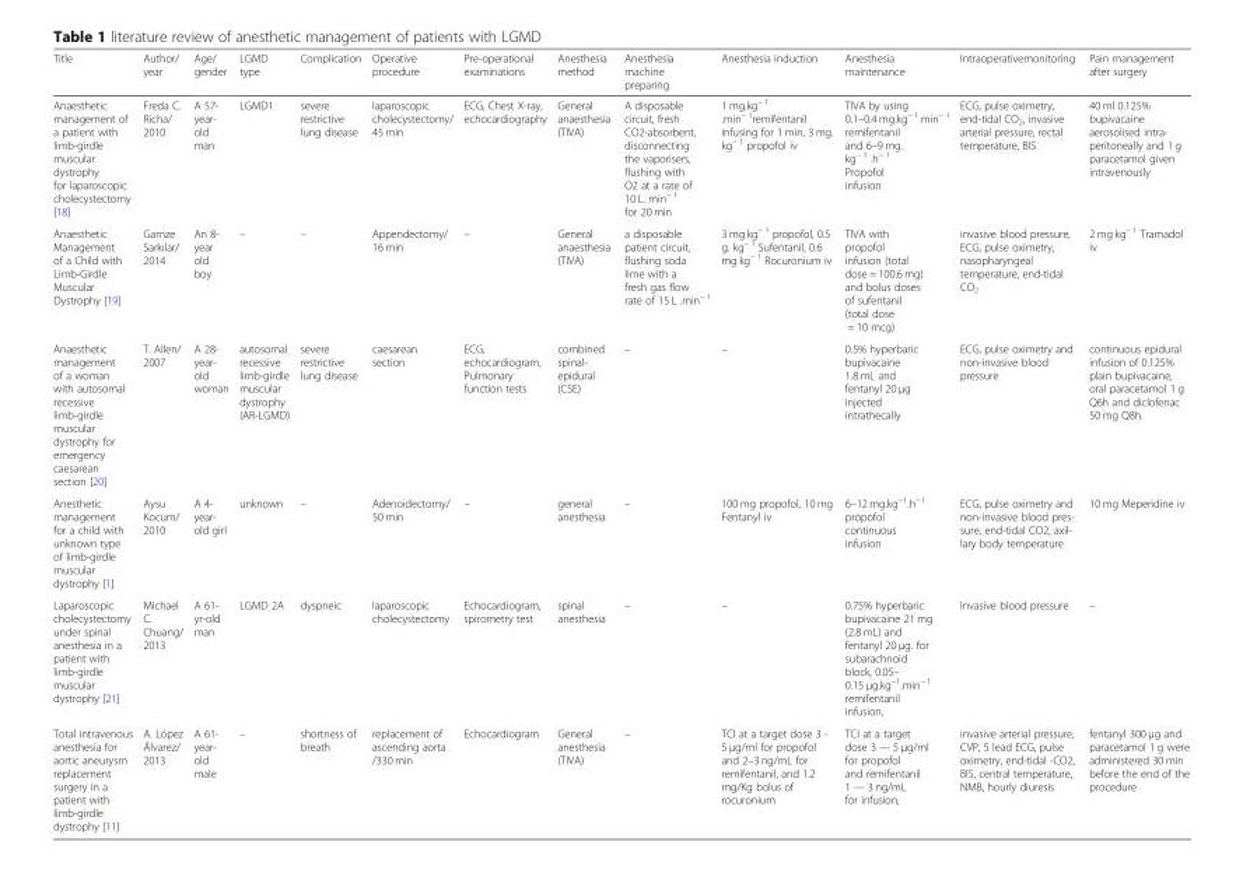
<table><thead><tr><td>Title</td><td>Author/ year</td><td>Age/ gender</td><td>LGMD type</td><td>Complication</td><td>Operative procedure</td><td>Pre-operational examinations</td><td>Anesthesia method</td><td>Anesthesia machine preparing</td><td>Anesthesia induction</td><td>Anesthesia maintenance</td><td>Intraoperativemonitoring</td><td>Pain management after surgery</td></tr></thead><tbody><tr><td>Anaesthetic management of a patient with limb-girdle muscular dystrophy for laparoscopic cholecystectomy [18]</td><td>Freda C. Richa/ 2010</td><td>A 57- year- old man</td><td>LGMD1</td><td>severe restrictive lung disease</td><td>laparoscopic cholecystectomy/ 45 min</td><td>ECG, Chest X-ray, echocardiography</td><td>General anaesthesia (TIVA)</td><td>A disposable circuit, fresh CO2-absorbent, disconnecting the vaporisers, flushing with O2 at a rate of 10 L. min<sup>− 1</sup> for 20 min</td><td>1 mg.kg<sup>− 1</sup> .min<sup>− 1</sup>remifentanil infusing for 1 min, 3 mg. kg<sup>− 1</sup> propofol iv</td><td>TIVA by using 0.1–0.4 mg.kg<sup>− 1</sup> min<sup>− 1</sup> remifentanil and 6–9 mg. kg<sup>− 1</sup> .h<sup>− 1</sup> Propofol infusion</td><td>ECG, pulse oximetry, end-tidal CO<sub>2</sub>, invasive arterial pressure, rectal temperature, BIS</td><td>40 ml 0.125% bupivacaine aerosolised intra- peritoneally and 1 g paracetamol given intravenously</td></tr><tr><td>Anaesthetic Management of a Child with Limb-Girdle Muscular Dystrophy [19]</td><td>Gamze Sarkılar/ 2014</td><td>An 8- year old boy</td><td>–</td><td>–</td><td>Appendectomy/ 16 min</td><td>–</td><td>General anaesthesia (TIVA)</td><td>a disposable patient circuit, flushing soda lime with a fresh gas flow rate of 15 L .min<sup>− 1</sup></td><td>3 mg kg<sup>− 1</sup> propofol, 0.5 g. kg<sup>− 1</sup> Sufentanil, 0.6 mg kg<sup>− 1</sup> Rocuronium iv</td><td>TIVA with propofol infusion (total dose = 100.6 mg) and bolus doses of sufentanil (total dose = 10 mcg)</td><td>invasive blood pressure, ECG, pulse oximetry, nasopharyngeal temperature, end-tidal CO<sub>2</sub></td><td>2 mg kg<sup>− 1</sup> Tramadol iv</td></tr><tr><td>Anaesthetic management of a woman with autosomal recessive limb-girdle muscular dystrophy for emergency caesarean section [20]</td><td>T. Allen/ 2007</td><td>A 28- year- old woman</td><td>autosomal recessive limb-girdle muscular dystrophy (AR-LGMD)</td><td>severe restrictive lung disease</td><td>caesarean section</td><td>ECG, echocardiogram, Pulmonary function tests</td><td>combined spinal- epidural (CSE)</td><td>–</td><td>–</td><td>0.5% hyperbaric bupivacaine 1.8 mL and fentanyl 20 μg injected intrathecally</td><td>ECG, pulse oximetry and non-invasive blood pressure</td><td>continuous epidural infusion of 0.125% plain bupivacaine, oral paracetamol 1 g Q6h and diclofenac 50 mg Q8h.</td></tr><tr><td>Anesthetic management for a child with unknown type of limb-girdle muscular dystrophy [1]</td><td>Aysu Kocum/ 2010</td><td>A 4- year- old girl</td><td>unknown</td><td>–</td><td>Adenoidectomy/ 50 min</td><td>–</td><td>general anesthesia</td><td>–</td><td>100 mg propofol, 10 mg Fentanyl iv</td><td>6–12 mg.kg<sup>−1</sup>.h<sup>−1</sup> propofol continuous infusion</td><td>ECG, pulse oximetry and non-invasive blood pres- sure, end-tidal CO2, axil- lary body temperature</td><td>10 mg Meperidine iv</td></tr><tr><td>Laparoscopic cholecystectomy under spinal anesthesia in a patient with limb-girdle muscular dystrophy [21]</td><td>Michael C. Chuang/ 2013</td><td>A 61- yr-old man</td><td>LGMD 2A</td><td>dyspneic</td><td>laparoscopic cholecystectomy</td><td>Echocardiogram, spirometry test</td><td>spinal anesthesia</td><td>–</td><td>–</td><td>0.75% hyperbaric bupivacaine 21 mg (2.8 mL) and fentanyl 20 μg. for subarachnoid block, 0.05– 0.15 μg.kg<sup>−1</sup>.min<sup>− 1</sup> remifentanil infusion,</td><td>Invasive blood pressure</td><td>–</td></tr><tr><td>Total intravenous anesthesia for aortic aneurysm replacement surgery in a patient with limb-girdle dystrophy [11]</td><td>A. López Álvarez/ 2013</td><td>A 61- year- old male</td><td>–</td><td>shortness of breath</td><td>replacement of ascending aorta /330 min</td><td>Echocardiogram</td><td>General anesthesia (TIVA)</td><td>–</td><td>TCI at a target dose 3 - 5 μg/ml for propofol and 2–3 ng/mL for remifentanil, and 1.2 mg/Kg bolus of rocuronium</td><td>TCI at a target dose 3 --- 5 μg/ml for propofol and remifentanil 1 --- 3 ng/mL for infusion,</td><td>invasive arterial pressure, CVP, 5 lead ECG, pulse oximetry, end-tidal -CO2, BIS, central temperature, NMB, hourly diuresis</td><td>fentanyl 300 μg and paracetamol 1 g were administered 30 min before the end of the procedure</td></tr></tbody></table>